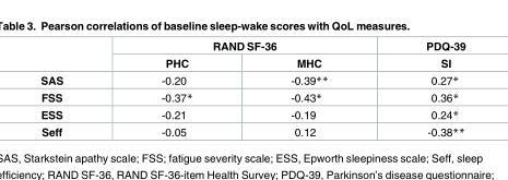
<table><thead><tr><td rowspan="2"></td><td colspan="2">RAND SF-36</td><td rowspan="2">PDQ-39 SI</td></tr><tr><td>PHC</td><td>MHC</td></tr></thead><tbody><tr><td>SAS</td><td>-0.20</td><td>-0.39**</td><td>0.27*</td></tr><tr><td>FSS</td><td>-0.37*</td><td>-0.43*</td><td>0.36*</td></tr><tr><td>ESS</td><td>-0.21</td><td>-0.19</td><td>0.24*</td></tr><tr><td>Seff</td><td>-0.05</td><td>0.12</td><td>-0.38**</td></tr></tbody></table>